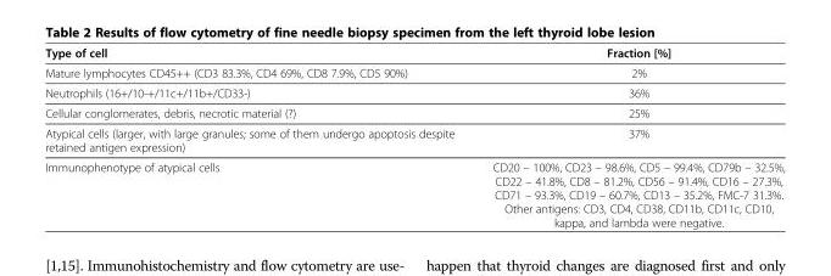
<table><thead><tr><td>Type of cell</td><td>Fraction [%]</td></tr></thead><tbody><tr><td>Mature lymphocytes CD45++ (CD3 83.3%, CD4 69%, CD8 7.9%, CD5 90%)</td><td>2%</td></tr><tr><td>Neutrophils (16+/10-+/11c+/11b+/CD33-)</td><td>36%</td></tr><tr><td>Cellular conglomerates, debris, necrotic material (?)</td><td>25%</td></tr><tr><td>Atypical cells (larger, with large granules; some of them undergo apoptosis despite retained antigen expression)</td><td>37%</td></tr><tr><td>Immunophenotype of atypical cells</td><td>CD20 – 100%, CD23 – 98.6%, CD5 – 99.4%, CD79b – 32.5%, CD22 – 41.8%, CD8 – 81.2%, CD56 – 91.4%, CD16 – 27.3%, CD71 – 93.3%, CD19 – 60.7%, CD13 – 35.2%, FMC-7 31.3%. Other antigens: CD3, CD4, CD38, CD11b, CD11c, CD10, kappa, and lambda were negative.</td></tr></tbody></table>